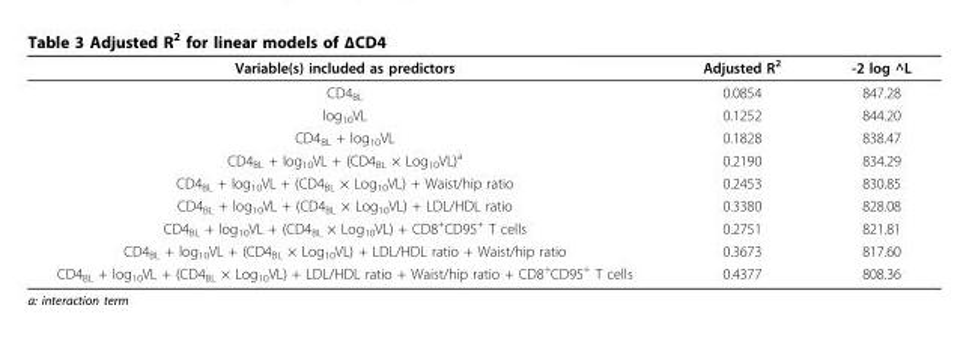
<table><thead><tr><td>Variable(s) included as predictors</td><td>Adjusted R<sup>2</sup></td><td>-2 log ^L</td></tr></thead><tbody><tr><td>CD4<sub>BL</sub></td><td>0.0854</td><td>847.28</td></tr><tr><td>log<sub>10</sub>VL</td><td>0.1252</td><td>844.20</td></tr><tr><td>CD4<sub>BL</sub> + log<sub>10</sub>VL</td><td>0.1828</td><td>838.47</td></tr><tr><td>CD4<sub>BL</sub> + log<sub>10</sub>VL + (CD4<sub>BL</sub> × Log<sub>10</sub>VL)<sup>a</sup></td><td>0.2190</td><td>834.29</td></tr><tr><td>CD4<sub>BL</sub> + log<sub>10</sub>VL + (CD4<sub>BL</sub> × Log<sub>10</sub>VL) + Waist/hip ratio</td><td>0.2453</td><td>830.85</td></tr><tr><td>CD4<sub>BL</sub> + log<sub>10</sub>VL + (CD4<sub>BL</sub> × Log<sub>10</sub>VL) + LDL/HDL ratio</td><td>0.3380</td><td>828.08</td></tr><tr><td>CD4<sub>BL</sub> + log<sub>10</sub>VL + (CD4<sub>BL</sub> × Log<sub>10</sub>VL) + CD8<sup>+</sup>CD95<sup>+</sup> T cells</td><td>0.2751</td><td>821.81</td></tr><tr><td>CD4<sub>BL</sub> + log<sub>10</sub>VL + (CD4<sub>BL</sub> × Log<sub>10</sub>VL) + LDL/HDL ratio + Waist/hip ratio</td><td>0.3673</td><td>817.60</td></tr><tr><td>CD4<sub>BL</sub> + log<sub>10</sub>VL + (CD4<sub>BL</sub> × Log<sub>10</sub>VL) + LDL/HDL ratio + Waist/hip ratio + CD8<sup>+</sup>CD95<sup>+</sup> T cells</td><td>0.4377</td><td>808.36</td></tr></tbody></table>